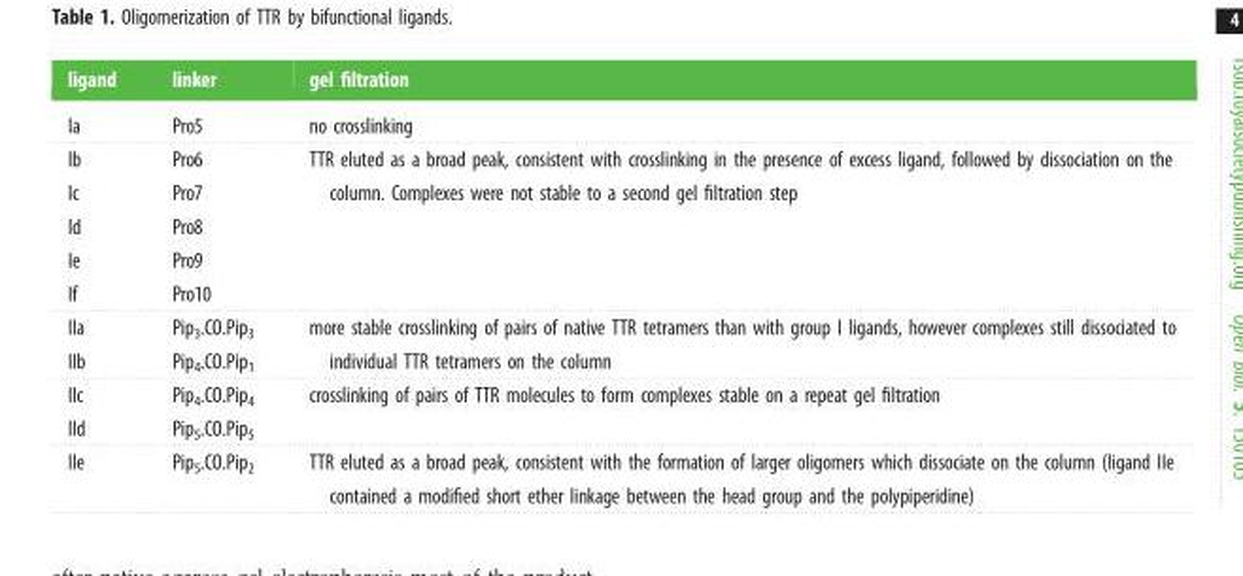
<table><thead><tr><td>ligand</td><td>linker</td><td>gel filtration</td></tr></thead><tbody><tr><td>Ia</td><td>Pro5</td><td>no crosslinking</td></tr><tr><td>Ib Ic Id Ie If</td><td>Pro6 Pro7 Pro8 Pro9 Pro10</td><td>TTR eluted as a broad peak, consistent with crosslinking in the presence of excess ligand, followed by dissociation on the column. Complexes were not stable to a second gel filtration step</td></tr><tr><td>IIa IIb</td><td>Pip<sub>3</sub>.CO.Pip<sub>3</sub> Pip<sub>4</sub>.CO.Pip<sub>1</sub></td><td>more stable crosslinking of pairs of native TTR tetramers than with group I ligands, however complexes still dissociated to individual TTR tetramers on the column</td></tr><tr><td>IIc IId</td><td>Pip<sub>4</sub>.CO.Pip<sub>4</sub> Pip<sub>5</sub>.CO.Pip<sub>5</sub></td><td>crosslinking of pairs of TTR molecules to form complexes stable on a repeat gel filtration</td></tr><tr><td>IIe</td><td>Pip<sub>5</sub>.CO.Pip<sub>2</sub></td><td>TTR eluted as a broad peak, consistent with the formation of larger oligomers which dissociate on the column (ligand IIe contained a modified short ether linkage between the head group and the polypiperidine)</td></tr></tbody></table>